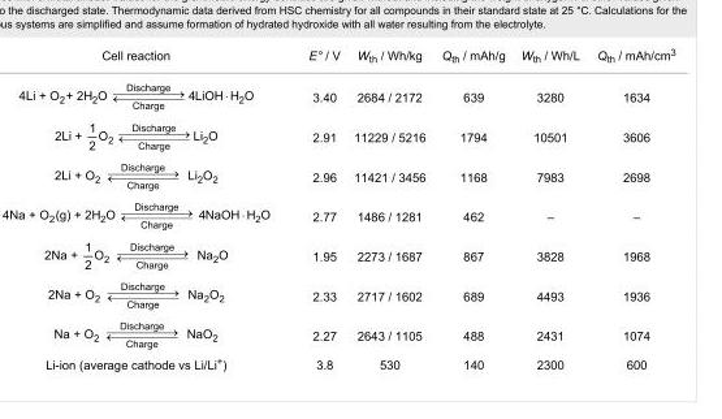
<table><tbody><tr><td rowspan="8">Cell reaction</td><td>E° / V</td><td>W<sub>th</sub> / Wh/kg</td><td>Q<sub>th</sub> / mAh/g</td><td>W<sub>th</sub> / Wh/L</td><td>Q<sub>th</sub> / mAh/cm<sup>3</sup></td></tr><tr><td>3.40</td><td>2684 / 2172</td><td>639</td><td>3280</td><td>1634</td></tr><tr><td>2.91</td><td>11229 / 5216</td><td>1794</td><td>10501</td><td>3606</td></tr><tr><td>2.96</td><td>11421 / 3456</td><td>1168</td><td>7983</td><td>2698</td></tr><tr><td>2.77</td><td>1486 / 1281</td><td>462</td><td>–</td><td>–</td></tr><tr><td>1.95</td><td>2273 / 1687</td><td>867</td><td>3828</td><td>1968</td></tr><tr><td>2.33</td><td>2717 / 1602</td><td>689</td><td>4493</td><td>1936</td></tr><tr><td>2.27</td><td>2643 / 1105</td><td>488</td><td>2431</td><td>1074</td></tr><tr><td>Li-ion (average cathode vs Li/Li<sup>+</sup>)</td><td>3.8</td><td>530</td><td>140</td><td>2300</td><td>600</td></tr></tbody></table>